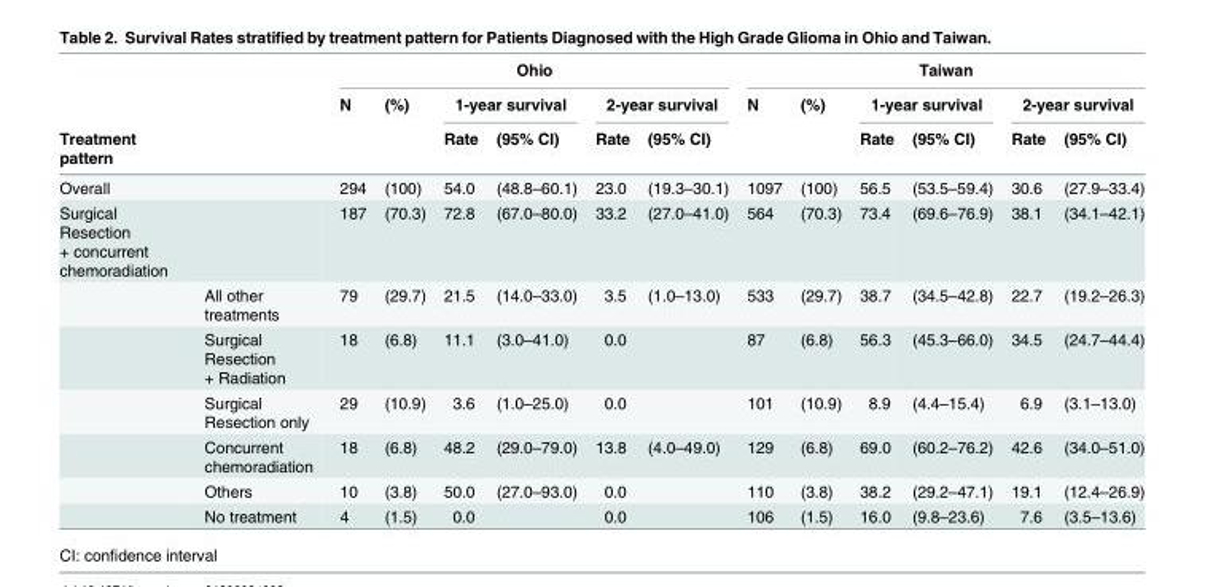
<table><thead><tr><td rowspan="3">Treatment pattern</td><td rowspan="3"></td><td colspan="6">Ohio</td><td colspan="6">Taiwan</td></tr><tr><td rowspan="2">N</td><td rowspan="2">(%)</td><td colspan="2">1-year survival</td><td colspan="2">2-year survival</td><td rowspan="2">N</td><td rowspan="2">(%)</td><td colspan="2">1-year survival</td><td colspan="2">2-year survival</td></tr><tr><td>Rate</td><td>(95% CI)</td><td>Rate</td><td>(95% CI)</td><td>Rate</td><td>(95% CI)</td><td>Rate</td><td>(95% CI)</td></tr></thead><tbody><tr><td>Overall</td><td></td><td>294</td><td>(100)</td><td>54.0</td><td>(48.8–60.1)</td><td>23.0</td><td>(19.3–30.1)</td><td>1097</td><td>(100)</td><td>56.5</td><td>(53.5–59.4)</td><td>30.6</td><td>(27.9–33.4)</td></tr><tr><td rowspan="7">Surgical Resection + concurrent chemoradiation</td><td></td><td>187</td><td>(70.3)</td><td>72.8</td><td>(67.0–80.0)</td><td>33.2</td><td>(27.0–41.0)</td><td>564</td><td>(70.3)</td><td>73.4</td><td>(69.6–76.9)</td><td>38.1</td><td>(34.1–42.1)</td></tr><tr><td>All other treatments</td><td>79</td><td>(29.7)</td><td>21.5</td><td>(14.0–33.0)</td><td>3.5</td><td>(1.0–13.0)</td><td>533</td><td>(29.7)</td><td>38.7</td><td>(34.5–42.8)</td><td>22.7</td><td>(19.2–26.3)</td></tr><tr><td>Surgical Resection + Radiation</td><td>18</td><td>(6.8)</td><td>11.1</td><td>(3.0–41.0)</td><td>0.0</td><td></td><td>87</td><td>(6.8)</td><td>56.3</td><td>(45.3–66.0)</td><td>34.5</td><td>(24.7–44.4)</td></tr><tr><td>Surgical Resection only</td><td>29</td><td>(10.9)</td><td>3.6</td><td>(1.0–25.0)</td><td>0.0</td><td></td><td>101</td><td>(10.9)</td><td>8.9</td><td>(4.4–15.4)</td><td>6.9</td><td>(3.1–13.0)</td></tr><tr><td>Concurrent chemoradiation</td><td>18</td><td>(6.8)</td><td>48.2</td><td>(29.0–79.0)</td><td>13.8</td><td>(4.0–49.0)</td><td>129</td><td>(6.8)</td><td>69.0</td><td>(60.2–76.2)</td><td>42.6</td><td>(34.0–51.0)</td></tr><tr><td>Others</td><td>10</td><td>(3.8)</td><td>50.0</td><td>(27.0–93.0)</td><td>0.0</td><td></td><td>110</td><td>(3.8)</td><td>38.2</td><td>(29.2–47.1)</td><td>19.1</td><td>(12.4–26.9)</td></tr><tr><td>No treatment</td><td>4</td><td>(1.5)</td><td>0.0</td><td></td><td>0.0</td><td></td><td>106</td><td>(1.5)</td><td>16.0</td><td>(9.8–23.6)</td><td>7.6</td><td>(3.5–13.6)</td></tr></tbody></table>